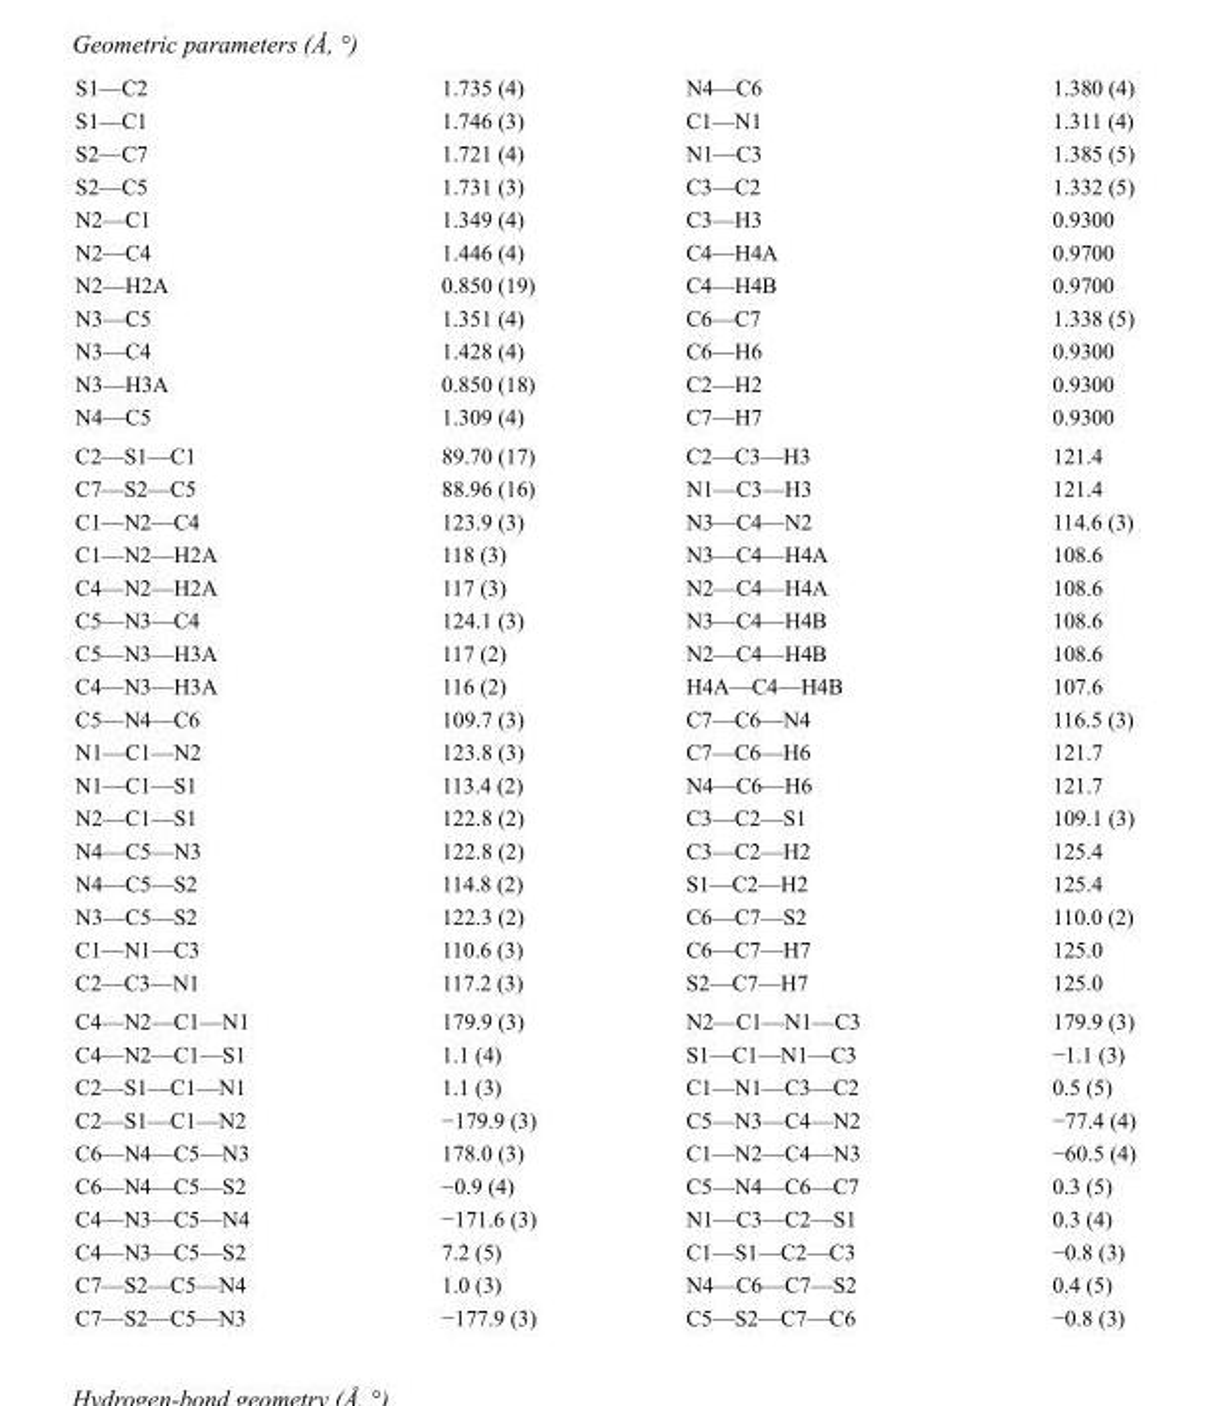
<table><tbody><tr><td>S1—C2</td><td>1.735 (4)</td><td>N4—C6</td><td>1.380 (4)</td></tr><tr><td>S1—C1</td><td>1.746 (3)</td><td>C1—N1</td><td>1.311 (4)</td></tr><tr><td>S2—C7</td><td>1.721 (4)</td><td>N1—C3</td><td>1.385 (5)</td></tr><tr><td>S2—C5</td><td>1.731 (3)</td><td>C3—C2</td><td>1.332 (5)</td></tr><tr><td>N2—C1</td><td>1.349 (4)</td><td>C3—H3</td><td>0.9300</td></tr><tr><td>N2—C4</td><td>1.446 (4)</td><td>C4—H4A</td><td>0.9700</td></tr><tr><td>N2—H2A</td><td>0.850 (19)</td><td>C4—H4B</td><td>0.9700</td></tr><tr><td>N3—C5</td><td>1.351 (4)</td><td>C6—C7</td><td>1.338 (5)</td></tr><tr><td>N3—C4</td><td>1.428 (4)</td><td>C6—H6</td><td>0.9300</td></tr><tr><td>N3—H3A</td><td>0.850 (18)</td><td>C2—H2</td><td>0.9300</td></tr><tr><td>N4—C5</td><td>1.309 (4)</td><td>C7—H7</td><td>0.9300</td></tr><tr><td>C2—S1—C1</td><td>89.70 (17)</td><td>C2—C3—H3</td><td>121.4</td></tr><tr><td>C7—S2—C5</td><td>88.96 (16)</td><td>N1—C3—H3</td><td>121.4</td></tr><tr><td>C1—N2—C4</td><td>123.9 (3)</td><td>N3—C4—N2</td><td>114.6 (3)</td></tr><tr><td>C1—N2—H2A</td><td>118 (3)</td><td>N3—C4—H4A</td><td>108.6</td></tr><tr><td>C4—N2—H2A</td><td>117 (3)</td><td>N2—C4—H4A</td><td>108.6</td></tr><tr><td>C5—N3—C4</td><td>124.1 (3)</td><td>N3—C4—H4B</td><td>108.6</td></tr><tr><td>C5—N3—H3A</td><td>117 (2)</td><td>N2—C4—H4B</td><td>108.6</td></tr><tr><td>C4—N3—H3A</td><td>116 (2)</td><td>H4A—C4—H4B</td><td>107.6</td></tr><tr><td>C5—N4—C6</td><td>109.7 (3)</td><td>C7—C6—N4</td><td>116.5 (3)</td></tr><tr><td>N1—C1—N2</td><td>123.8 (3)</td><td>C7—C6—H6</td><td>121.7</td></tr><tr><td>N1—C1—S1</td><td>113.4 (2)</td><td>N4—C6—H6</td><td>121.7</td></tr><tr><td>N2—C1—S1</td><td>122.8 (2)</td><td>C3—C2—S1</td><td>109.1 (3)</td></tr><tr><td>N4—C5—N3</td><td>122.8 (2)</td><td>C3—C2—H2</td><td>125.4</td></tr><tr><td>N4—C5—S2</td><td>114.8 (2)</td><td>S1—C2—H2</td><td>125.4</td></tr><tr><td>N3—C5—S2</td><td>122.3 (2)</td><td>C6—C7—S2</td><td>110.0 (2)</td></tr><tr><td>C1—N1—C3</td><td>110.6 (3)</td><td>C6—C7—H7</td><td>125.0</td></tr><tr><td>C2—C3—N1</td><td>117.2 (3)</td><td>S2—C7—H7</td><td>125.0</td></tr><tr><td>C4—N2—C1—N1</td><td>179.9 (3)</td><td>N2—C1—N1—C3</td><td>179.9 (3)</td></tr><tr><td>C4—N2—C1—S1</td><td>1.1 (4)</td><td>S1—C1—N1—C3</td><td>−1.1 (3)</td></tr><tr><td>C2—S1—C1—N1</td><td>1.1 (3)</td><td>C1—N1—C3—C2</td><td>0.5 (5)</td></tr><tr><td>C2—S1—C1—N2</td><td>−179.9 (3)</td><td>C5—N3—C4—N2</td><td>−77.4 (4)</td></tr><tr><td>C6—N4—C5—N3</td><td>178.0 (3)</td><td>C1—N2—C4—N3</td><td>−60.5 (4)</td></tr><tr><td>C6—N4—C5—S2</td><td>−0.9 (4)</td><td>C5—N4—C6—C7</td><td>0.3 (5)</td></tr><tr><td>C4—N3—C5—N4</td><td>−171.6 (3)</td><td>N1—C3—C2—S1</td><td>0.3 (4)</td></tr><tr><td>C4—N3—C5—S2</td><td>7.2 (5)</td><td>C1—S1—C2—C3</td><td>−0.8 (3)</td></tr><tr><td>C7—S2—C5—N4</td><td>1.0 (3)</td><td>N4—C6—C7—S2</td><td>0.4 (5)</td></tr><tr><td>C7—S2—C5—N3</td><td>−177.9 (3)</td><td>C5—S2—C7—C6</td><td>−0.8 (3)</td></tr></tbody></table>